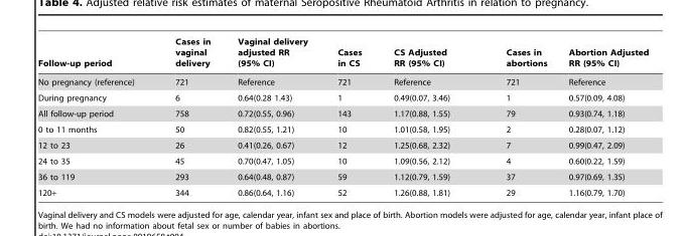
<table><thead><tr><td>Follow-up period</td><td>Cases in vaginal delivery</td><td>Vaginal delivery adjusted RR (95% CI)</td><td>Cases in CS</td><td>CS Adjusted RR (95% CI)</td><td>Cases in abortions</td><td>Abortion Adjusted RR (95% CI)</td></tr></thead><tbody><tr><td>No pregnancy (reference)</td><td>721</td><td>Reference</td><td>721</td><td>Reference</td><td>721</td><td>Reference</td></tr><tr><td>During pregnancy</td><td>6</td><td>0.64(0.28 1.43)</td><td>1</td><td>0.49(0.07, 3.46)</td><td>1</td><td>0.57(0.09, 4.08)</td></tr><tr><td>All follow-up period</td><td>758</td><td>0.72(0.55, 0.96)</td><td>143</td><td>1.17(0.88, 1.55)</td><td>79</td><td>0.93(0.74, 1.18)</td></tr><tr><td>0 to 11 months</td><td>50</td><td>0.82(0.55, 1.21)</td><td>10</td><td>1.01(0.58, 1.95)</td><td>2</td><td>0.28(0.07, 1.12)</td></tr><tr><td>12 to 23</td><td>26</td><td>0.41(0.26, 0.67)</td><td>12</td><td>1.25(0.68, 2.32)</td><td>7</td><td>0.99(0.47, 2.09)</td></tr><tr><td>24 to 35</td><td>45</td><td>0.70(0.47, 1.05)</td><td>10</td><td>1.09(0.56, 2.12)</td><td>4</td><td>0.60(0.22, 1.59)</td></tr><tr><td>36 to 119</td><td>293</td><td>0.64(0.48, 0.87)</td><td>59</td><td>1.12(0.79, 1.59)</td><td>37</td><td>0.97(0.69, 1.35)</td></tr><tr><td>120+</td><td>344</td><td>0.86(0.64, 1.16)</td><td>52</td><td>1.26(0.88, 1.81)</td><td>29</td><td>1.16(0.79, 1.70)</td></tr></tbody></table>